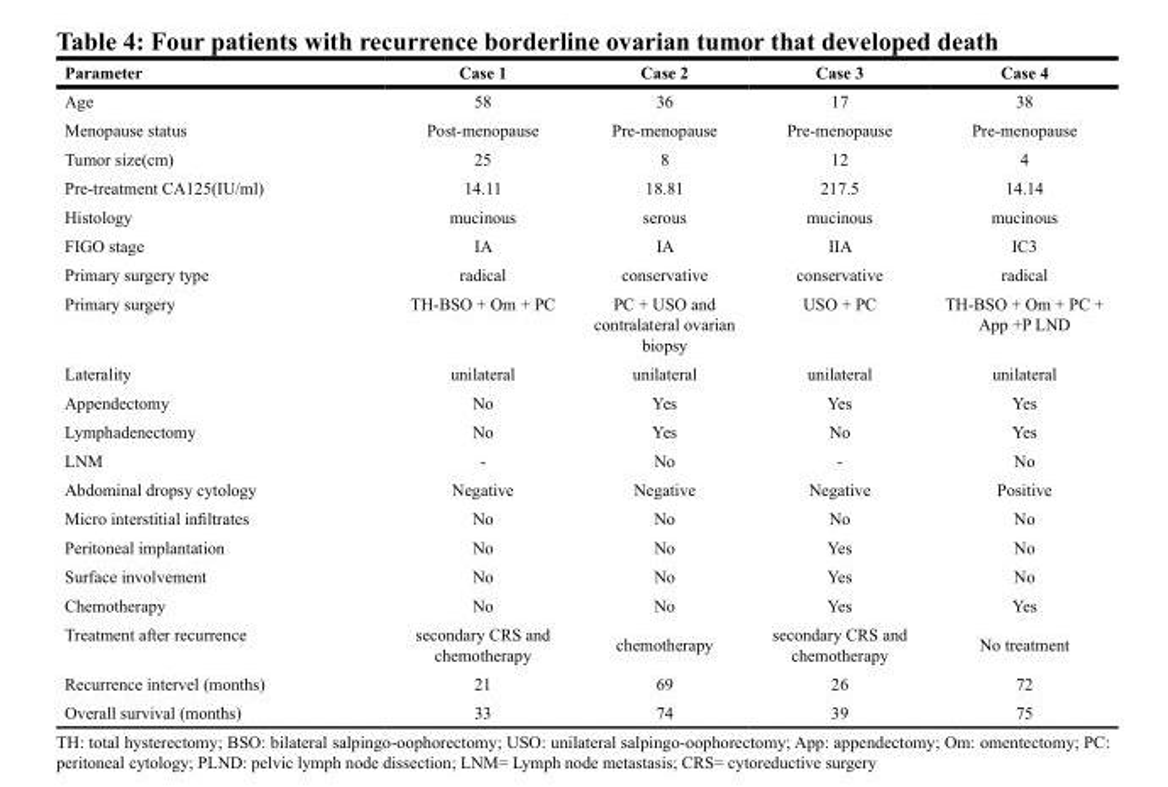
<table><thead><tr><td>Parameter</td><td>Case 1</td><td>Case 2</td><td>Case 3</td><td>Case 4</td></tr></thead><tbody><tr><td>Age</td><td>58</td><td>36</td><td>17</td><td>38</td></tr><tr><td>Menopause status</td><td>Post-menopause</td><td>Pre-menopause</td><td>Pre-menopause</td><td>Pre-menopause</td></tr><tr><td>Tumor size(cm)</td><td>25</td><td>8</td><td>12</td><td>4</td></tr><tr><td>Pre-treatment CA125(IU/ml)</td><td>14.11</td><td>18.81</td><td>217.5</td><td>14.14</td></tr><tr><td>Histology</td><td>mucinous</td><td>serous</td><td>mucinous</td><td>mucinous</td></tr><tr><td>FIGO stage</td><td>IA</td><td>IA</td><td>IIA</td><td>IC3</td></tr><tr><td>Primary surgery type</td><td>radical</td><td>conservative</td><td>conservative</td><td>radical</td></tr><tr><td>Primary surgery</td><td>TH-BSO + Om + PC</td><td>PC + USO and contralateral ovarian biopsy</td><td>USO + PC</td><td>TH-BSO + Om + PC + App +P LND</td></tr><tr><td>Laterality</td><td>unilateral</td><td>unilateral</td><td>unilateral</td><td>unilateral</td></tr><tr><td>Appendectomy</td><td>No</td><td>Yes</td><td>Yes</td><td>Yes</td></tr><tr><td>Lymphadenectomy</td><td>No</td><td>Yes</td><td>No</td><td>Yes</td></tr><tr><td>LNM</td><td>-</td><td>No</td><td>-</td><td>No</td></tr><tr><td>Abdominal dropsy cytology</td><td>Negative</td><td>Negative</td><td>Negative</td><td>Positive</td></tr><tr><td>Micro interstitial infiltrates</td><td>No</td><td>No</td><td>No</td><td>No</td></tr><tr><td>Peritoneal implantation</td><td>No</td><td>No</td><td>Yes</td><td>No</td></tr><tr><td>Surface involvement</td><td>No</td><td>No</td><td>Yes</td><td>No</td></tr><tr><td>Chemotherapy</td><td>No</td><td>No</td><td>Yes</td><td>Yes</td></tr><tr><td>Treatment after recurrence</td><td>secondary CRS and chemotherapy</td><td>chemotherapy</td><td>secondary CRS and chemotherapy</td><td>No treatment</td></tr><tr><td>Recurrence intervel (months)</td><td>21</td><td>69</td><td>26</td><td>72</td></tr><tr><td>Overall survival (months)</td><td>33</td><td>74</td><td>39</td><td>75</td></tr></tbody></table>